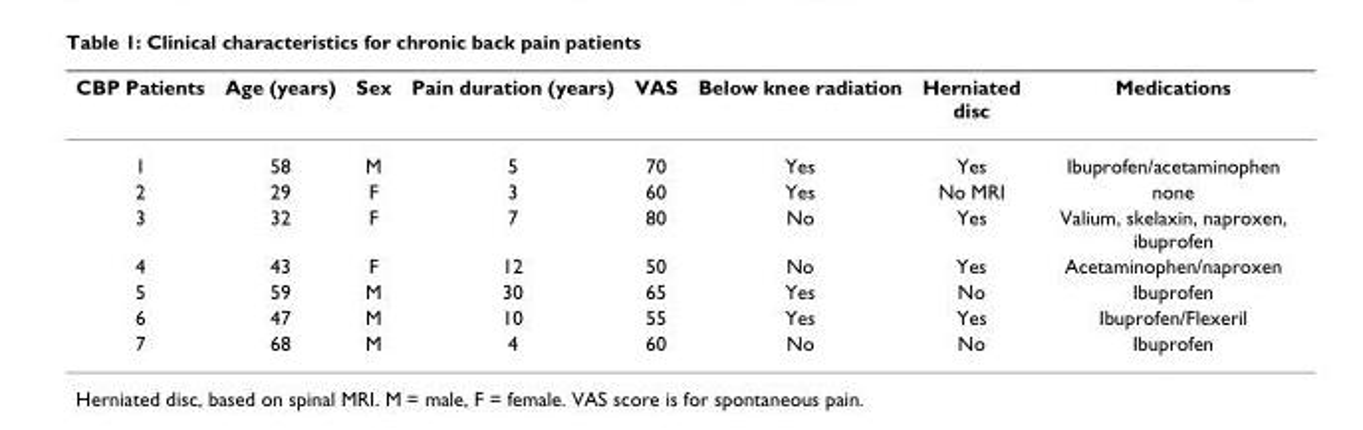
<table><thead><tr><td>CBP Patients</td><td>Age (years)</td><td>Sex</td><td>Pain duration (years)</td><td>VAS</td><td>Below knee radiation</td><td>Herniated disc</td><td>Medications</td></tr></thead><tbody><tr><td>1</td><td>58</td><td>M</td><td>5</td><td>70</td><td>Yes</td><td>Yes</td><td>Ibuprofen/acetaminophen</td></tr><tr><td>2</td><td>29</td><td>F</td><td>3</td><td>60</td><td>Yes</td><td>No MRI</td><td>none</td></tr><tr><td>3</td><td>32</td><td>F</td><td>7</td><td>80</td><td>No</td><td>Yes</td><td>Valium, skelaxin, naproxen, ibuprofen</td></tr><tr><td>4</td><td>43</td><td>F</td><td>12</td><td>50</td><td>No</td><td>Yes</td><td>Acetaminophen/naproxen</td></tr><tr><td>5</td><td>59</td><td>M</td><td>30</td><td>65</td><td>Yes</td><td>No</td><td>Ibuprofen</td></tr><tr><td>6</td><td>47</td><td>M</td><td>10</td><td>55</td><td>Yes</td><td>Yes</td><td>Ibuprofen/Flexeril</td></tr><tr><td>7</td><td>68</td><td>M</td><td>4</td><td>60</td><td>No</td><td>No</td><td>Ibuprofen</td></tr></tbody></table>